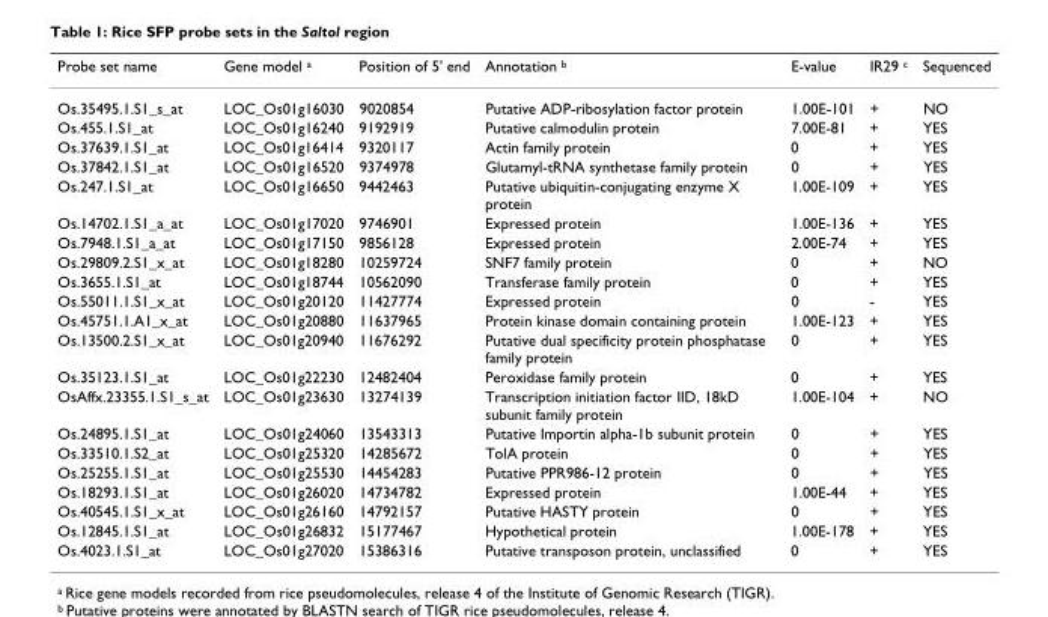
<table><thead><tr><td>Probe set name</td><td>Gene model <sup>a</sup></td><td>Position of 5&#x27; end</td><td>Annotation <sup>b</sup></td><td>E-value</td><td>IR29 <sup>c</sup></td><td>Sequenced</td></tr></thead><tbody><tr><td>Os.35495.1.S1_s_at</td><td>LOC_Os01g16030</td><td>9020854</td><td>Putative ADP-ribosylation factor protein</td><td>1.00E-101</td><td>+</td><td>NO</td></tr><tr><td>Os.455.1.S1_at</td><td>LOC_Os01g16240</td><td>9192919</td><td>Putative calmodulin protein</td><td>7.00E-81</td><td>+</td><td>YES</td></tr><tr><td>Os.37639.1.S1_at</td><td>LOC_Os01g16414</td><td>9320117</td><td>Actin family protein</td><td>0</td><td>+</td><td>YES</td></tr><tr><td>Os.37842.1.S1_at</td><td>LOC_Os01g16520</td><td>9374978</td><td>Glutamyl-tRNA synthetase family protein</td><td>0</td><td>+</td><td>YES</td></tr><tr><td>Os.247.1.S1_at</td><td>LOC_Os01g16650</td><td>9442463</td><td>Putative ubiquitin-conjugating enzyme X protein</td><td>1.00E-109</td><td>+</td><td>YES</td></tr><tr><td>Os.14702.1.S1_a_at</td><td>LOC_Os01g17020</td><td>9746901</td><td>Expressed protein</td><td>1.00E-136</td><td>+</td><td>YES</td></tr><tr><td>Os.7948.1.S1_a_at</td><td>LOC_Os01g17150</td><td>9856128</td><td>Expressed protein</td><td>2.00E-74</td><td>+</td><td>YES</td></tr><tr><td>Os.29809.2.S1_x_at</td><td>LOC_Os01g18280</td><td>10259724</td><td>SNF7 family protein</td><td>0</td><td>+</td><td>NO</td></tr><tr><td>Os.3655.1.S1_at</td><td>LOC_Os01g18744</td><td>10562090</td><td>Transferase family protein</td><td>0</td><td>+</td><td>YES</td></tr><tr><td>Os.55011.1.S1_x_at</td><td>LOC_Os01g20120</td><td>11427774</td><td>Expressed protein</td><td>0</td><td>-</td><td>YES</td></tr><tr><td>Os.45751.1.A1_x_at</td><td>LOC_Os01g20880</td><td>11637965</td><td>Protein kinase domain containing protein</td><td>1.00E-123</td><td>+</td><td>YES</td></tr><tr><td>Os.13500.2.S1_x_at</td><td>LOC_Os01g20940</td><td>11676292</td><td>Putative dual specificity protein phosphatase family protein</td><td>0</td><td>+</td><td>YES</td></tr><tr><td>Os.35123.1.S1_at</td><td>LOC_Os01g22230</td><td>12482404</td><td>Peroxidase family protein</td><td>0</td><td>+</td><td>YES</td></tr><tr><td>OsAffx.23355.1.S1_s_at</td><td>LOC_Os01g23630</td><td>13274139</td><td>Transcription initiation factor IID, 18kD subunit family protein</td><td>1.00E-104</td><td>+</td><td>NO</td></tr><tr><td>Os.24895.1.S1_at</td><td>LOC_Os01g24060</td><td>13543313</td><td>Putative Importin alpha-1b subunit protein</td><td>0</td><td>+</td><td>YES</td></tr><tr><td>Os.33510.1.S2_at</td><td>LOC_Os01g25320</td><td>14285672</td><td>TolA protein</td><td>0</td><td>+</td><td>YES</td></tr><tr><td>Os.25255.1.S1_at</td><td>LOC_Os01g25530</td><td>14454283</td><td>Putative PPR986-12 protein</td><td>0</td><td>+</td><td>YES</td></tr><tr><td>Os.18293.1.S1_at</td><td>LOC_Os01g26020</td><td>14734782</td><td>Expressed protein</td><td>1.00E-44</td><td>+</td><td>YES</td></tr><tr><td>Os.40545.1.S1_x_at</td><td>LOC_Os01g26160</td><td>14792157</td><td>Putative HASTY protein</td><td>0</td><td>+</td><td>YES</td></tr><tr><td>Os.12845.1.S1_at</td><td>LOC_Os01g26832</td><td>15177467</td><td>Hypothetical protein</td><td>1.00E-178</td><td>+</td><td>YES</td></tr><tr><td>Os.4023.1.S1_at</td><td>LOC_Os01g27020</td><td>15386316</td><td>Putative transposon protein, unclassified</td><td>0</td><td>+</td><td>YES</td></tr></tbody></table>